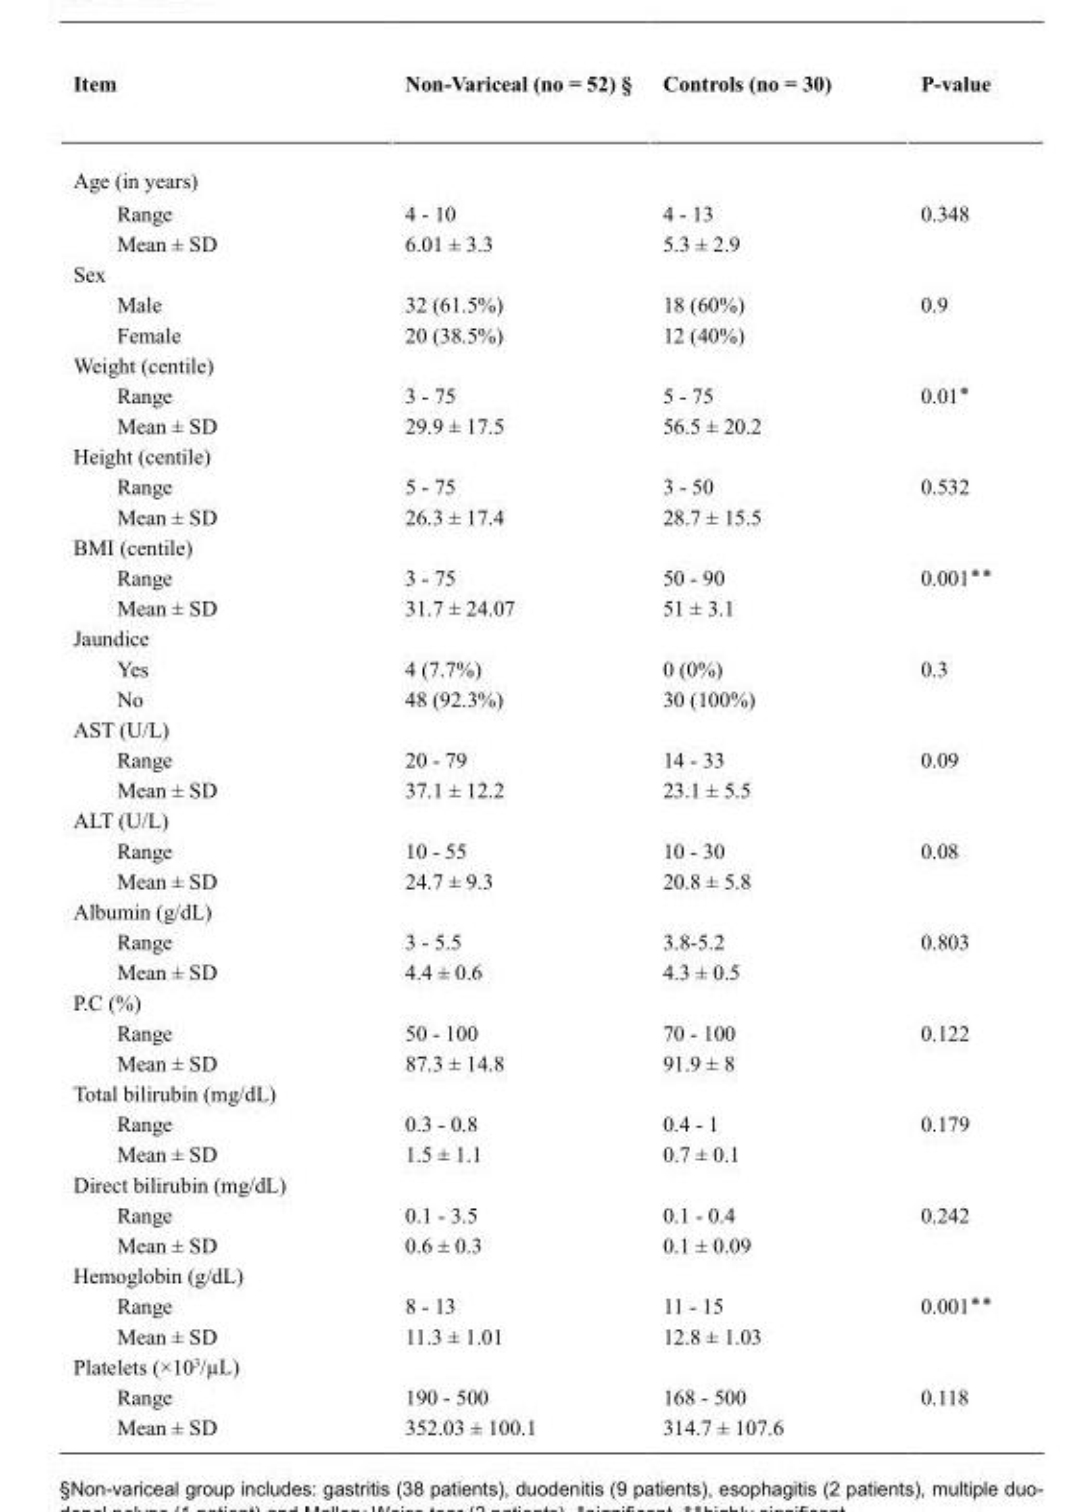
<table><thead><tr><td>Item</td><td>Non-Variceal (no = 52) <sup>§</sup></td><td>Controls (no = 30)</td><td>P-value</td></tr></thead><tbody><tr><td colspan="4">Age (in years)</td></tr><tr><td>Range</td><td>4 - 10</td><td>4 - 13</td><td>0.348</td></tr><tr><td>Mean ± SD</td><td>6.01 ± 3.3</td><td>5.3 ± 2.9</td><td></td></tr><tr><td colspan="4">Sex</td></tr><tr><td>Male</td><td>32 (61.5%)</td><td>18 (60%)</td><td>0.9</td></tr><tr><td>Female</td><td>20 (38.5%)</td><td>12 (40%)</td><td></td></tr><tr><td colspan="4">Weight (centile)</td></tr><tr><td>Range</td><td>3 - 75</td><td>5 - 75</td><td>0.01٭</td></tr><tr><td>Mean ± SD</td><td>29.9 ± 17.5</td><td>56.5 ± 20.2</td><td></td></tr><tr><td colspan="4">Height (centile)</td></tr><tr><td>Range</td><td>5 - 75</td><td>3 - 50</td><td>0.532</td></tr><tr><td>Mean ± SD</td><td>26.3 ± 17.4</td><td>28.7 ± 15.5</td><td></td></tr><tr><td colspan="4">BMI (centile)</td></tr><tr><td>Range</td><td>3 - 75</td><td>50 - 90</td><td>0.001٭٭</td></tr><tr><td>Mean ± SD</td><td>31.7 ± 24.07</td><td>51 ± 3.1</td><td></td></tr><tr><td colspan="4">Jaundice</td></tr><tr><td>Yes</td><td>4 (7.7%)</td><td>0 (0%)</td><td>0.3</td></tr><tr><td>No</td><td>48 (92.3%)</td><td>30 (100%)</td><td></td></tr><tr><td colspan="4">AST (U/L)</td></tr><tr><td>Range</td><td>20 - 79</td><td>14 - 33</td><td>0.09</td></tr><tr><td>Mean ± SD</td><td>37.1 ± 12.2</td><td>23.1 ± 5.5</td><td></td></tr><tr><td colspan="4">ALT (U/L)</td></tr><tr><td>Range</td><td>10 - 55</td><td>10 - 30</td><td>0.08</td></tr><tr><td>Mean ± SD</td><td>24.7 ± 9.3</td><td>20.8 ± 5.8</td><td></td></tr><tr><td colspan="4">Albumin (g/dL)</td></tr><tr><td>Range</td><td>3 - 5.5</td><td>3.8-5.2</td><td>0.803</td></tr><tr><td>Mean ± SD</td><td>4.4 ± 0.6</td><td>4.3 ± 0.5</td><td></td></tr><tr><td colspan="4">P.C (%)</td></tr><tr><td>Range</td><td>50 - 100</td><td>70 - 100</td><td>0.122</td></tr><tr><td>Mean ± SD</td><td>87.3 ± 14.8</td><td>91.9 ± 8</td><td></td></tr><tr><td colspan="4">Total bilirubin (mg/dL)</td></tr><tr><td>Range</td><td>0.3 - 0.8</td><td>0.4 - 1</td><td>0.179</td></tr><tr><td>Mean ± SD</td><td>1.5 ± 1.1</td><td>0.7 ± 0.1</td><td></td></tr><tr><td colspan="4">Direct bilirubin (mg/dL)</td></tr><tr><td>Range</td><td>0.1 - 3.5</td><td>0.1 - 0.4</td><td>0.242</td></tr><tr><td>Mean ± SD</td><td>0.6 ± 0.3</td><td>0.1 ± 0.09</td><td></td></tr><tr><td colspan="4">Hemoglobin (g/dL)</td></tr><tr><td>Range</td><td>8 - 13</td><td>11 - 15</td><td>0.001٭٭</td></tr><tr><td>Mean ± SD</td><td>11.3 ± 1.01</td><td>12.8 ± 1.03</td><td></td></tr><tr><td colspan="4">Platelets (×10<sup>3</sup>/µL)</td></tr><tr><td>Range</td><td>190 - 500</td><td>168 - 500</td><td>0.118</td></tr><tr><td>Mean ± SD</td><td>352.03 ± 100.1</td><td>314.7 ± 107.6</td><td></td></tr></tbody></table>